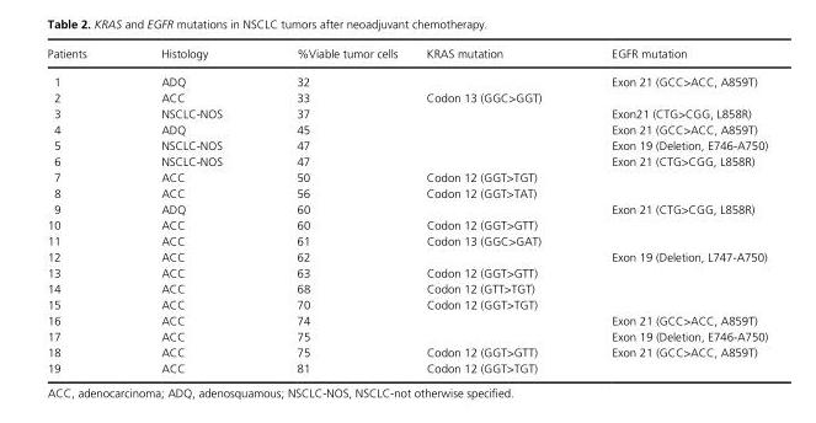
<table><thead><tr><td>Patients</td><td>Histology</td><td>%Viable tumor cells</td><td>KRAS mutation</td><td>EGFR mutation</td></tr></thead><tbody><tr><td>1</td><td>ADQ</td><td>32</td><td></td><td>Exon 21 (GCC&gt;ACC, A859T)</td></tr><tr><td>2</td><td>ACC</td><td>33</td><td>Codon 13 (GGC&gt;GGT)</td><td></td></tr><tr><td>3</td><td>NSCLC- NOS</td><td>37</td><td></td><td>Exon21 (CTG&gt;CGG, L858R)</td></tr><tr><td>4</td><td>ADQ</td><td>45</td><td></td><td>Exon 21 (GCC&gt;ACC, A859T)</td></tr><tr><td>5</td><td>NSCLC- NOS</td><td>47</td><td></td><td>Exon 19 (Deletion, E746- A750)</td></tr><tr><td>6</td><td>NSCLC- NOS</td><td>47</td><td></td><td>Exon 21 (CTG&gt;CGG, L858R)</td></tr><tr><td>7</td><td>ACC</td><td>50</td><td>Codon 12 (GGT&gt;TGT)</td><td></td></tr><tr><td>8</td><td>ACC</td><td>56</td><td>Codon 12 (GGT&gt;TAT)</td><td></td></tr><tr><td>9</td><td>ADQ</td><td>60</td><td></td><td>Exon 21 (CTG&gt;CGG, L858R)</td></tr><tr><td>10</td><td>ACC</td><td>60</td><td>Codon 12 (GGT&gt;GTT)</td><td></td></tr><tr><td>11</td><td>ACC</td><td>61</td><td>Codon 13 (GGC&gt;GAT)</td><td></td></tr><tr><td>12</td><td>ACC</td><td>62</td><td></td><td>Exon 19 (Deletion, L747- A750)</td></tr><tr><td>13</td><td>ACC</td><td>63</td><td>Codon 12 (GGT&gt;GTT)</td><td></td></tr><tr><td>14</td><td>ACC</td><td>68</td><td>Codon 12 (GTT&gt;TGT)</td><td></td></tr><tr><td>15</td><td>ACC</td><td>70</td><td>Codon 12 (GGT&gt;TGT)</td><td></td></tr><tr><td>16</td><td>ACC</td><td>74</td><td></td><td>Exon 21 (GCC&gt;ACC, A859T)</td></tr><tr><td>17</td><td>ACC</td><td>75</td><td></td><td>Exon 19 (Deletion, E746- A750)</td></tr><tr><td>18</td><td>ACC</td><td>75</td><td>Codon 12 (GGT&gt;GTT)</td><td>Exon 21 (GCC&gt;ACC, A859T)</td></tr><tr><td>19</td><td>ACC</td><td>81</td><td>Codon 12 (GGT&gt;TGT)</td><td></td></tr></tbody></table>